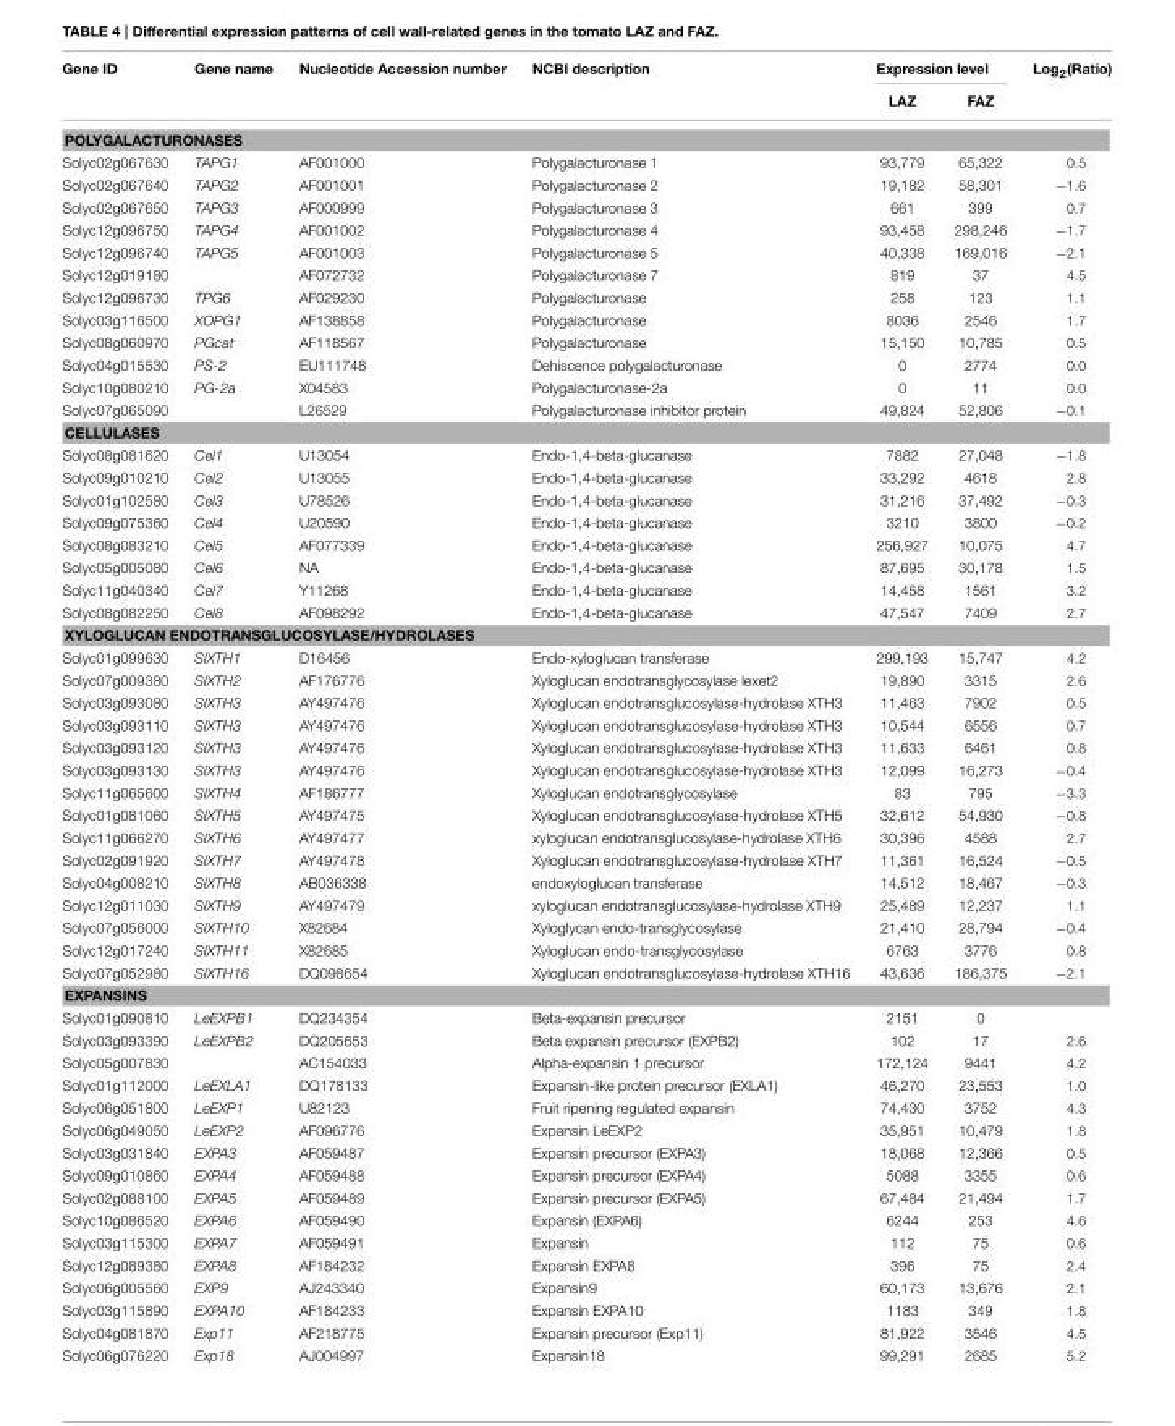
<table><thead><tr><td rowspan="2">Gene ID</td><td rowspan="2">Gene name</td><td rowspan="2">Nucleotide Accession number</td><td rowspan="2">NCBI description</td><td colspan="2">Expression level</td><td rowspan="2">Log<sub>2</sub>(Ratio)</td></tr><tr><td>LAZ</td><td>FAZ</td></tr></thead><tbody><tr><td colspan="7">POLYGALACTURONASES</td></tr><tr><td>Solyc02g067630</td><td>TAPG1</td><td>AF001000</td><td>Polygalacturonase 1</td><td>93,779</td><td>65,322</td><td>0.5</td></tr><tr><td>Solyc02g067640</td><td>TAPG2</td><td>AF001001</td><td>Polygalacturonase 2</td><td>19,182</td><td>58,301</td><td>−1.6</td></tr><tr><td>Solyc02g067650</td><td>TAPG3</td><td>AF000999</td><td>Polygalacturonase 3</td><td>661</td><td>399</td><td>0.7</td></tr><tr><td>Solyc12g096750</td><td>TAPG4</td><td>AF001002</td><td>Polygalacturonase 4</td><td>93,458</td><td>298,246</td><td>−1.7</td></tr><tr><td>Solyc12g096740</td><td>TAPG5</td><td>AF001003</td><td>Polygalacturonase 5</td><td>40,338</td><td>169,016</td><td>−2.1</td></tr><tr><td>Solyc12g019180</td><td></td><td>AF072732</td><td>Polygalacturonase 7</td><td>819</td><td>37</td><td>4.5</td></tr><tr><td>Solyc12g096730</td><td>TPG6</td><td>AF029230</td><td>Polygalacturonase</td><td>258</td><td>123</td><td>1.1</td></tr><tr><td>Solyc03g116500</td><td>XOPG1</td><td>AF138858</td><td>Polygalacturonase</td><td>8036</td><td>2546</td><td>1.7</td></tr><tr><td>Solyc08g060970</td><td>PGcat</td><td>AF118567</td><td>Polygalacturonase</td><td>15,150</td><td>10,785</td><td>0.5</td></tr><tr><td>Solyc04g015530</td><td>PS-2</td><td>EU111748</td><td>Dehiscence polygalacturonase</td><td>0</td><td>2774</td><td>0.0</td></tr><tr><td>Solyc10g080210</td><td>PG-2a</td><td>X04583</td><td>Polygalacturonase-2a</td><td>0</td><td>11</td><td>0.0</td></tr><tr><td>Solyc07g065090</td><td></td><td>L26529</td><td>Polygalacturonase inhibitor protein</td><td>49,824</td><td>52,806</td><td>−0.1</td></tr><tr><td colspan="7">CELLULASES</td></tr><tr><td>Solyc08g081620</td><td>Cel1</td><td>U13054</td><td>Endo-1,4-beta-glucanase</td><td>7882</td><td>27,048</td><td>−1.8</td></tr><tr><td>Solyc09g010210</td><td>Cel2</td><td>U13055</td><td>Endo-1,4-beta-glucanase</td><td>33,292</td><td>4618</td><td>2.8</td></tr><tr><td>Solyc01g102580</td><td>Cel3</td><td>U78526</td><td>Endo-1,4-beta-glucanase</td><td>31,216</td><td>37,492</td><td>−0.3</td></tr><tr><td>Solyc09g075360</td><td>Cel4</td><td>U20590</td><td>Endo-1,4-beta-glucanase</td><td>3210</td><td>3800</td><td>−0.2</td></tr><tr><td>Solyc08g083210</td><td>Cel5</td><td>AF077339</td><td>Endo-1,4-beta-glucanase</td><td>256,927</td><td>10,075</td><td>4.7</td></tr><tr><td>Solyc05g005080</td><td>Cel6</td><td>NA</td><td>Endo-1,4-beta-glucanase</td><td>87,695</td><td>30,178</td><td>1.5</td></tr><tr><td>Solyc11g040340</td><td>Cel7</td><td>Y11268</td><td>Endo-1,4-beta-glucanase</td><td>14,458</td><td>1561</td><td>3.2</td></tr><tr><td>Solyc08g082250</td><td>Cel8</td><td>AF098292</td><td>Endo-1,4-beta-glucanase</td><td>47,547</td><td>7409</td><td>2.7</td></tr><tr><td colspan="7">XYLOGLUCAN ENDOTRANSGLUCOSYLASE/HYDROLASES</td></tr><tr><td>Solyc01g099630</td><td>SlXTH1</td><td>D16456</td><td>Endo-xyloglucan transferase</td><td>299,193</td><td>15,747</td><td>4.2</td></tr><tr><td>Solyc07g009380</td><td>SlXTH2</td><td>AF176776</td><td>Xyloglucan endotransglycosylase lexet2</td><td>19,890</td><td>3315</td><td>2.6</td></tr><tr><td>Solyc03g093080</td><td>SlXTH3</td><td>AY497476</td><td>Xyloglucan endotransglucosylase-hydrolase XTH3</td><td>11,463</td><td>7902</td><td>0.5</td></tr><tr><td>Solyc03g093110</td><td>SlXTH3</td><td>AY497476</td><td>Xyloglucan endotransglucosylase-hydrolase XTH3</td><td>10,544</td><td>6556</td><td>0.7</td></tr><tr><td>Solyc03g093120</td><td>SlXTH3</td><td>AY497476</td><td>Xyloglucan endotransglucosylase-hydrolase XTH3</td><td>11,633</td><td>6461</td><td>0.8</td></tr><tr><td>Solyc03g093130</td><td>SlXTH3</td><td>AY497476</td><td>Xyloglucan endotransglucosylase-hydrolase XTH3</td><td>12,099</td><td>16,273</td><td>−0.4</td></tr><tr><td>Solyc11g065600</td><td>SlXTH4</td><td>AF186777</td><td>Xyloglucan endotransglycosylase</td><td>83</td><td>795</td><td>−3.3</td></tr><tr><td>Solyc01g081060</td><td>SlXTH5</td><td>AY497475</td><td>Xyloglucan endotransglucosylase-hydrolase XTH5</td><td>32,612</td><td>54,930</td><td>−0.8</td></tr><tr><td>Solyc11g066270</td><td>SlXTH6</td><td>AY497477</td><td>xyloglucan endotransglucosylase-hydrolase XTH6</td><td>30,396</td><td>4588</td><td>2.7</td></tr><tr><td>Solyc02g091920</td><td>SlXTH7</td><td>AY497478</td><td>Xyloglucan endotransglucosylase-hydrolase XTH7</td><td>11,361</td><td>16,524</td><td>−0.5</td></tr><tr><td>Solyc04g008210</td><td>SlXTH8</td><td>AB036338</td><td>endoxyloglucan transferase</td><td>14,512</td><td>18,467</td><td>−0.3</td></tr><tr><td>Solyc12g011030</td><td>SlXTH9</td><td>AY497479</td><td>xyloglucan endotransglucosylase-hydrolase XTH9</td><td>25,489</td><td>12,237</td><td>1.1</td></tr><tr><td>Solyc07g056000</td><td>SlXTH10</td><td>X82684</td><td>Xyloglycan endo-transglycosylase</td><td>21,410</td><td>28,794</td><td>−0.4</td></tr><tr><td>Solyc12g017240</td><td>SlXTH11</td><td>X82685</td><td>Xyloglucan endo-transglycosylase</td><td>6763</td><td>3776</td><td>0.8</td></tr><tr><td>Solyc07g052980</td><td>SlXTH16</td><td>DQ098654</td><td>Xyloglucan endotransglucosylase-hydrolase XTH16</td><td>43,636</td><td>186,375</td><td>−2.1</td></tr><tr><td colspan="7">EXPANSINS</td></tr><tr><td>Solyc01g090810</td><td>LeEXPB1</td><td>DQ234354</td><td>Beta-expansin precursor</td><td>2151</td><td>0</td><td></td></tr><tr><td>Solyc03g093390</td><td>LeEXPB2</td><td>DQ205653</td><td>Beta expansin precursor (EXPB2)</td><td>102</td><td>17</td><td>2.6</td></tr><tr><td>Solyc05g007830</td><td></td><td>AC154033</td><td>Alpha-expansin 1 precursor</td><td>172,124</td><td>9441</td><td>4.2</td></tr><tr><td>Solyc01g112000</td><td>LeEXLA1</td><td>DQ178133</td><td>Expansin-like protein precursor (EXLA1)</td><td>46,270</td><td>23,553</td><td>1.0</td></tr><tr><td>Solyc06g051800</td><td>LeEXP1</td><td>U82123</td><td>Fruit ripening regulated expansin</td><td>74,430</td><td>3752</td><td>4.3</td></tr><tr><td>Solyc06g049050</td><td>LeEXP2</td><td>AF096776</td><td>Expansin LeEXP2</td><td>35,951</td><td>10,479</td><td>1.8</td></tr><tr><td>Solyc03g031840</td><td>EXPA3</td><td>AF059487</td><td>Expansin precursor (EXPA3)</td><td>18,068</td><td>12,366</td><td>0.5</td></tr><tr><td>Solyc09g010860</td><td>EXPA4</td><td>AF059488</td><td>Expansin precursor (EXPA4)</td><td>5088</td><td>3355</td><td>0.6</td></tr><tr><td>Solyc02g088100</td><td>EXPA5</td><td>AF059489</td><td>Expansin precursor (EXPA5)</td><td>67,484</td><td>21,494</td><td>1.7</td></tr><tr><td>Solyc10g086520</td><td>EXPA6</td><td>AF059490</td><td>Expansin (EXPA6)</td><td>6244</td><td>253</td><td>4.6</td></tr><tr><td>Solyc03g115300</td><td>EXPA7</td><td>AF059491</td><td>Expansin</td><td>112</td><td>75</td><td>0.6</td></tr><tr><td>Solyc12g089380</td><td>EXPA8</td><td>AF184232</td><td>Expansin EXPA8</td><td>396</td><td>75</td><td>2.4</td></tr><tr><td>Solyc06g005560</td><td>EXP9</td><td>AJ243340</td><td>Expansin9</td><td>60,173</td><td>13,676</td><td>2.1</td></tr><tr><td>Solyc03g115890</td><td>EXPA10</td><td>AF184233</td><td>Expansin EXPA10</td><td>1183</td><td>349</td><td>1.8</td></tr><tr><td>Solyc04g081870</td><td>Exp11</td><td>AF218775</td><td>Expansin precursor (Exp11)</td><td>81,922</td><td>3546</td><td>4.5</td></tr><tr><td>Solyc06g076220</td><td>Exp18</td><td>AJ004997</td><td>Expansin18</td><td>99,291</td><td>2685</td><td>5.2</td></tr></tbody></table>